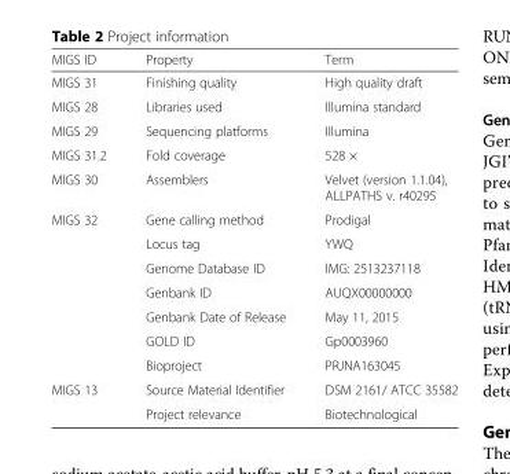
<table><thead><tr><td>MIGS ID</td><td>Property</td><td>Term</td></tr></thead><tbody><tr><td>MIGS 31</td><td>Finishing quality</td><td>High quality draft</td></tr><tr><td>MIGS 28</td><td>Libraries used</td><td>Illumina standard</td></tr><tr><td>MIGS 29</td><td>Sequencing platforms</td><td>Illumina</td></tr><tr><td>MIGS 31.2</td><td>Fold coverage</td><td>528 ×</td></tr><tr><td>MIGS 30</td><td>Assemblers</td><td>Velvet (version 1.1.04), ALLPATHS v. r40295</td></tr><tr><td rowspan="7">MIGS 32</td><td>Gene calling method</td><td>Prodigal</td></tr><tr><td>Locus tag</td><td>YWQ</td></tr><tr><td>Genome Database ID</td><td>IMG: 2513237118</td></tr><tr><td>Genbank ID</td><td>AUQX00000000</td></tr><tr><td>Genbank Date of Release</td><td>May 11, 2015</td></tr><tr><td>GOLD ID</td><td>Gp0003960</td></tr><tr><td>Bioproject</td><td>PRJNA163045</td></tr><tr><td rowspan="2">MIGS 13</td><td>Source Material Identifier</td><td>DSM 2161/ ATCC 35582</td></tr><tr><td>Project relevance</td><td>Biotechnological</td></tr></tbody></table>